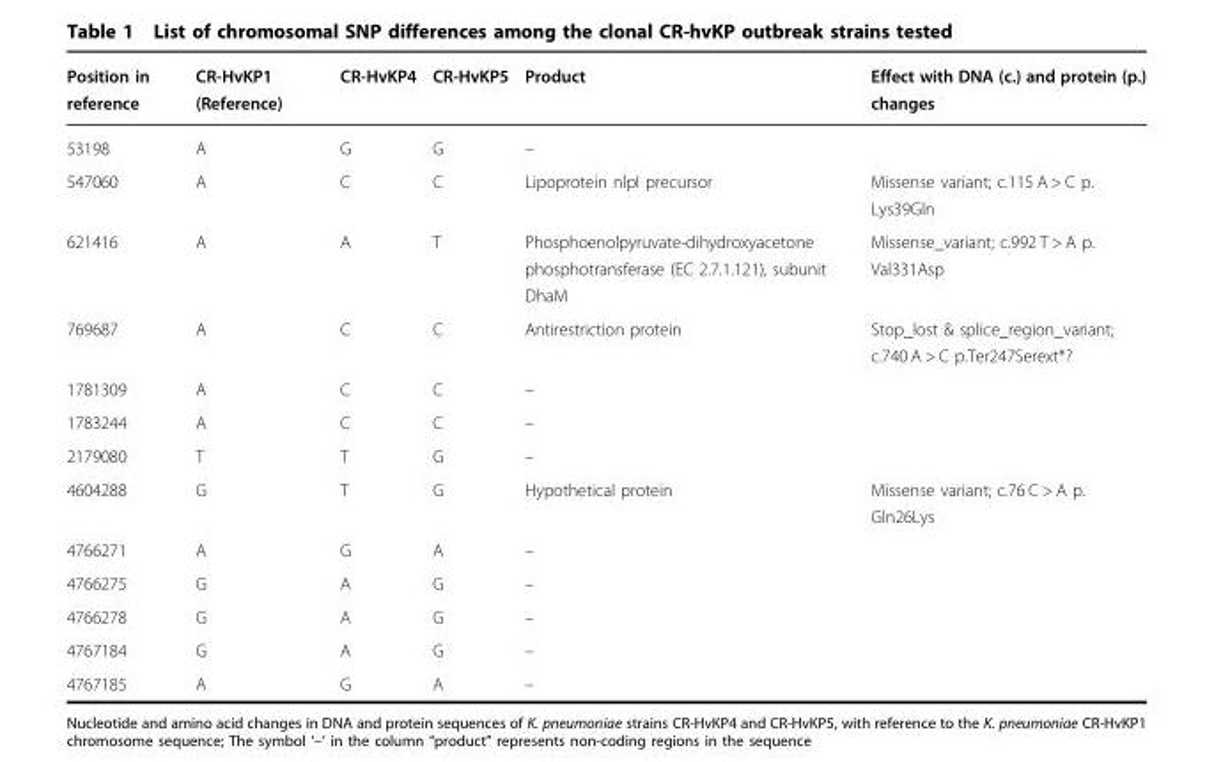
<table><thead><tr><td>Position in reference</td><td>CR-HvKP1 (Reference)</td><td>CR-HvKP4</td><td>CR-HvKP5</td><td>Product</td><td>Effect with DNA (c.) and protein (p.) changes</td></tr></thead><tbody><tr><td>53198</td><td>A</td><td>G</td><td>G</td><td>–</td><td></td></tr><tr><td>547060</td><td>A</td><td>C</td><td>C</td><td>Lipoprotein nlpI precursor</td><td>Missense variant; c.115 A &gt; C p. Lys39Gln</td></tr><tr><td>621416</td><td>A</td><td>A</td><td>T</td><td>Phosphoenolpyruvate-dihydroxyacetone phosphotransferase (EC 2.7.1.121), subunit DhaM</td><td>Missense_variant; c.992 T &gt; A p. Val331Asp</td></tr><tr><td>769687</td><td>A</td><td>C</td><td>C</td><td>Antirestriction protein</td><td>Stop_lost &amp; splice_region_variant; c.740 A &gt; C p.Ter247Serext*?</td></tr><tr><td>1781309</td><td>A</td><td>C</td><td>C</td><td>–</td><td></td></tr><tr><td>1783244</td><td>A</td><td>C</td><td>C</td><td>–</td><td></td></tr><tr><td>2179080</td><td>T</td><td>T</td><td>G</td><td>–</td><td></td></tr><tr><td>4604288</td><td>G</td><td>T</td><td>G</td><td>Hypothetical protein</td><td>Missense variant; c.76 C &gt; A p. Gln26Lys</td></tr><tr><td>4766271</td><td>A</td><td>G</td><td>A</td><td>–</td><td></td></tr><tr><td>4766275</td><td>G</td><td>A</td><td>G</td><td>–</td><td></td></tr><tr><td>4766278</td><td>G</td><td>A</td><td>G</td><td>–</td><td></td></tr><tr><td>4767184</td><td>G</td><td>A</td><td>G</td><td>–</td><td></td></tr><tr><td>4767185</td><td>A</td><td>G</td><td>A</td><td>–</td><td></td></tr></tbody></table>